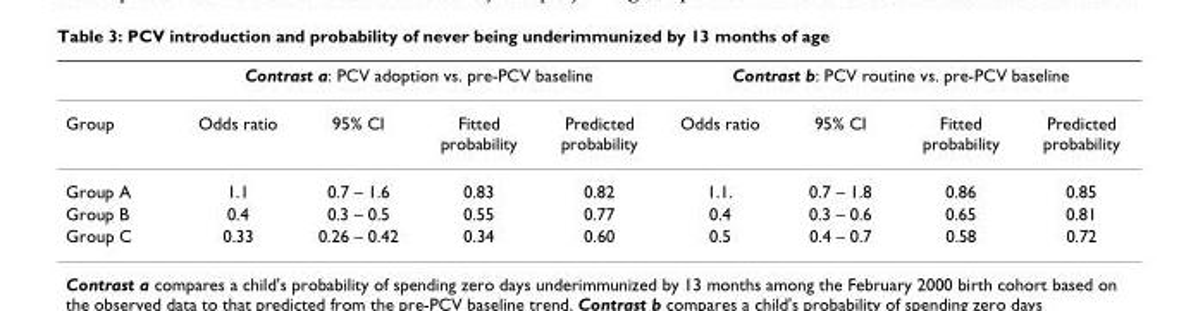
<table><thead><tr><td rowspan="2">Group</td><td colspan="4">Contrast a: PCV adoption vs. pre-PCV baseline</td><td colspan="4">Contrast b: PCV routine vs. pre-PCV baseline</td></tr><tr><td>Odds ratio</td><td>95% CI</td><td>Fitted probability</td><td>Predicted probability</td><td>Odds ratio</td><td>95% CI</td><td>Fitted probability</td><td>Predicted probability</td></tr></thead><tbody><tr><td>Group A</td><td>1.1</td><td>0.7 – 1.6</td><td>0.83</td><td>0.82</td><td>1.1.</td><td>0.7 – 1.8</td><td>0.86</td><td>0.85</td></tr><tr><td>Group B</td><td>0.4</td><td>0.3 – 0.5</td><td>0.55</td><td>0.77</td><td>0.4</td><td>0.3 – 0.6</td><td>0.65</td><td>0.81</td></tr><tr><td>Group C</td><td>0.33</td><td>0.26 – 0.42</td><td>0.34</td><td>0.60</td><td>0.5</td><td>0.4 – 0.7</td><td>0.58</td><td>0.72</td></tr></tbody></table>